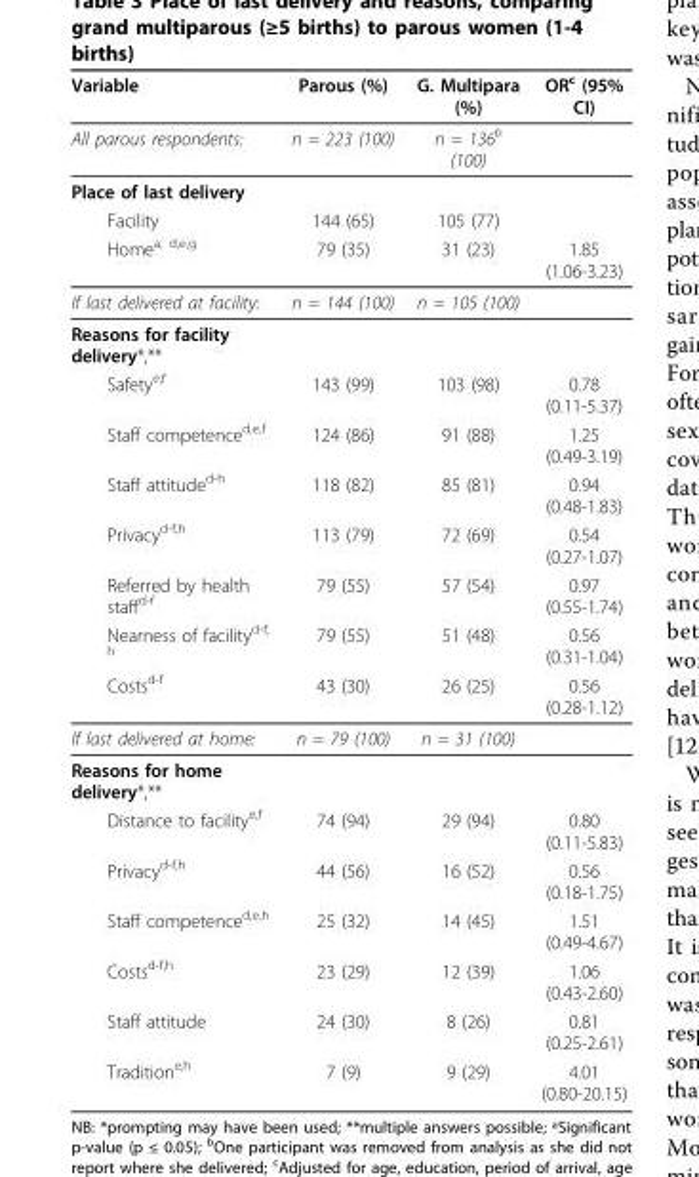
<table><thead><tr><td>Variable</td><td>Parous (%)</td><td>G. Multipara (%)</td><td>OR<sup>c</sup> (95% CI)</td></tr></thead><tbody><tr><td>All parous respondents:</td><td>n = 223 (100)</td><td>n = 136<sup>b</sup> (100)</td><td></td></tr><tr><td colspan="4">Place of last delivery</td></tr><tr><td>Facility</td><td>144 (65)</td><td>105 (77)</td><td></td></tr><tr><td>Home<sup>a, d,e,g</sup></td><td>79 (35)</td><td>31 (23)</td><td>1.85 (1.06-3.23)</td></tr><tr><td>If last delivered at facility:</td><td>n = 144 (100)</td><td>n = 105 (100)</td><td></td></tr><tr><td colspan="4">Reasons for facility delivery*,**</td></tr><tr><td>Safety<sup>e,f</sup></td><td>143 (99)</td><td>103 (98)</td><td>0.78 (0.11-5.37)</td></tr><tr><td>Staff competence<sup>d,e,f</sup></td><td>124 (86)</td><td>91 (88)</td><td>1.25 (0.49-3.19)</td></tr><tr><td>Staff attitude<sup>d-h</sup></td><td>118 (82)</td><td>85 (81)</td><td>0.94 (0.48-1.83)</td></tr><tr><td>Privacy<sup>d-f,h</sup></td><td>113 (79)</td><td>72 (69)</td><td>0.54 (0.27-1.07)</td></tr><tr><td>Referred by health staff<sup>d-f</sup></td><td>79 (55)</td><td>57 (54)</td><td>0.97 (0.55-1.74)</td></tr><tr><td>Nearness of facility<sup>d-f, h</sup></td><td>79 (55)</td><td>51 (48)</td><td>0.56 (0.31-1.04)</td></tr><tr><td>Costs<sup>d-f</sup></td><td>43 (30)</td><td>26 (25)</td><td>0.56 (0.28-1.12)</td></tr><tr><td>If last delivered at home:</td><td>n = 79 (100)</td><td>n = 31 (100)</td><td></td></tr><tr><td colspan="4">Reasons for home delivery*,**</td></tr><tr><td>Distance to facility<sup>e,f</sup></td><td>74 (94)</td><td>29 (94)</td><td>0.80 (0.11-5.83)</td></tr><tr><td>Privacy<sup>d-f,h</sup></td><td>44 (56)</td><td>16 (52)</td><td>0.56 (0.18-1.75)</td></tr><tr><td>Staff competence<sup>d,e,h</sup></td><td>25 (32)</td><td>14 (45)</td><td>1.51 (0.49-4.67)</td></tr><tr><td>Costs<sup>d-f,h</sup></td><td>23 (29)</td><td>12 (39)</td><td>1.06 (0.43-2.60)</td></tr><tr><td>Staff attitude</td><td>24 (30)</td><td>8 (26)</td><td>0.81 (0.25-2.61)</td></tr><tr><td>Tradition<sup>e,h</sup></td><td>7 (9)</td><td>9 (29)</td><td>4.01 (0.80-20.15)</td></tr></tbody></table>